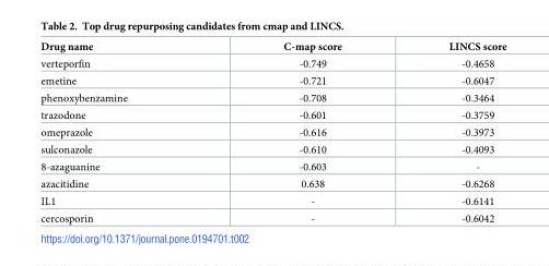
<table><thead><tr><td>Drug name</td><td>C-map score</td><td>LINCS score</td></tr></thead><tbody><tr><td>verteporfin</td><td>-0.749</td><td>-0.4658</td></tr><tr><td>emetine</td><td>-0.721</td><td>-0.6047</td></tr><tr><td>phenoxybenzamine</td><td>-0.708</td><td>-0.3464</td></tr><tr><td>trazodone</td><td>-0.601</td><td>-0.3759</td></tr><tr><td>omeprazole</td><td>-0.616</td><td>-0.3973</td></tr><tr><td>sulconazole</td><td>-0.610</td><td>-0.4093</td></tr><tr><td>8-azaguanine</td><td>-0.603</td><td>-</td></tr><tr><td>azacitidine</td><td>0.638</td><td>-0.6268</td></tr><tr><td>IL1</td><td>-</td><td>-0.6141</td></tr><tr><td>cercosporin</td><td>-</td><td>-0.6042</td></tr></tbody></table>